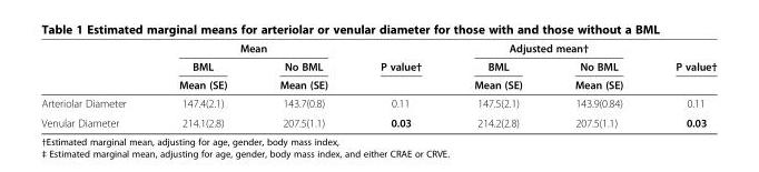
<table><thead><tr><td rowspan="3"></td><td colspan="2">Mean</td><td rowspan="3">P value†</td><td colspan="2">Adjusted mean†</td><td rowspan="3">P value†</td></tr><tr><td rowspan="2">BML Mean (SE)</td><td rowspan="2">No BML Mean (SE)</td><td rowspan="2">BML Mean (SE)</td><td rowspan="2">No BML Mean (SE)</td></tr><tr></tr></thead><tbody><tr><td>Arteriolar Diameter</td><td>147.4(2.1)</td><td>143.7(0.8)</td><td>0.11</td><td>147.5(2.1)</td><td>143.9(0.84)</td><td>0.11</td></tr><tr><td>Venular Diameter</td><td>214.1(2.8)</td><td>207.5(1.1)</td><td>0.03</td><td>214.2(2.8)</td><td>207.5(1.1)</td><td>0.03</td></tr></tbody></table>